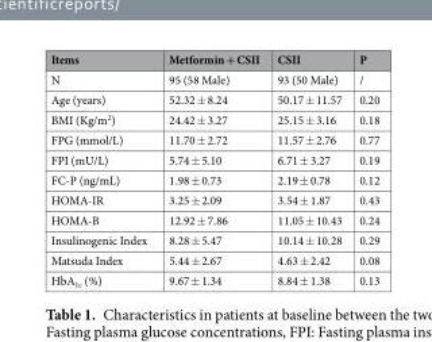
<table><thead><tr><td>Items</td><td>Metformin + CSII</td><td>CSII</td><td>P</td></tr></thead><tbody><tr><td>N</td><td>95 (58 Male)</td><td>93 (50 Male)</td><td>/</td></tr><tr><td>Age (years)</td><td>52.32 ± 8.24</td><td>50.17 ± 11.57</td><td>0.20</td></tr><tr><td>BMI (Kg/m<sup>2</sup>)</td><td>24.42 ± 3.27</td><td>25.15 ± 3.16</td><td>0.18</td></tr><tr><td>FPG (mmol/L)</td><td>11.70 ± 2.72</td><td>11.57 ± 2.76</td><td>0.77</td></tr><tr><td>FPI (mU/L)</td><td>5.74 ± 5.10</td><td>6.71 ± 3.27</td><td>0.19</td></tr><tr><td>FC-P (ng/mL)</td><td>1.98 ± 0.73</td><td>2.19 ± 0.78</td><td>0.12</td></tr><tr><td>HOMA-IR</td><td>3.25 ± 2.09</td><td>3.54 ± 1.87</td><td>0.43</td></tr><tr><td>HOMA-B</td><td>12.92 ± 7.86</td><td>11.05 ± 10.43</td><td>0.24</td></tr><tr><td>Insulinogenic Index</td><td>8.28 ± 5.47</td><td>10.14 ± 10.28</td><td>0.29</td></tr><tr><td>Matsuda Index</td><td>5.44 ± 2.67</td><td>4.63 ± 2.42</td><td>0.08</td></tr><tr><td>HbA<sub>1c</sub> (%)</td><td>9.67 ± 1.34</td><td>8.84 ± 1.38</td><td>0.13</td></tr></tbody></table>